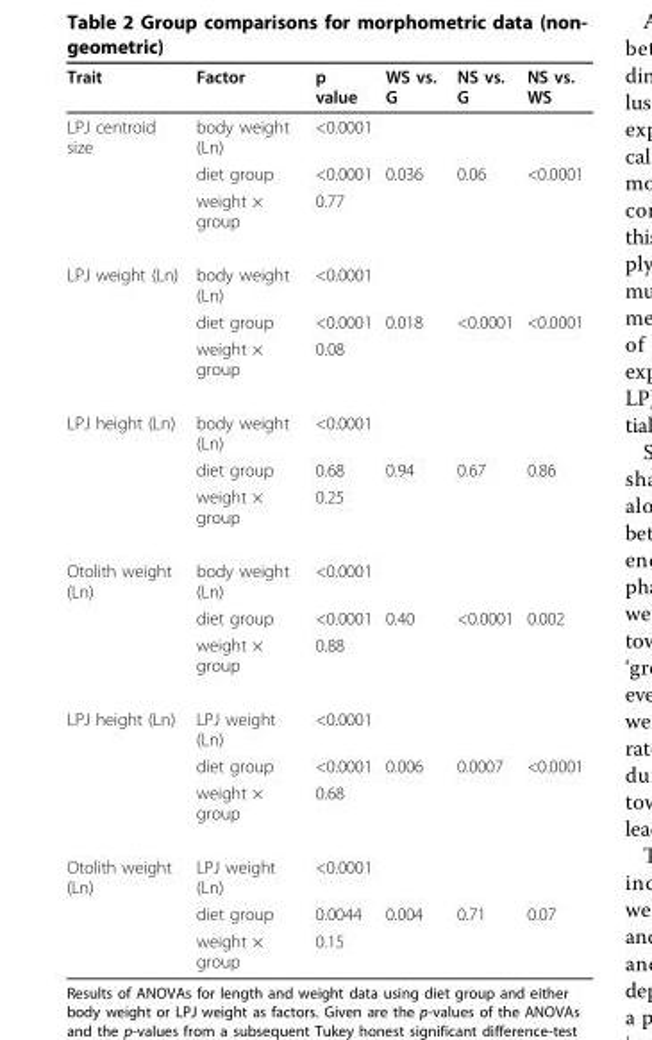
<table><thead><tr><td>Trait</td><td>Factor</td><td>p value</td><td>WS vs. G</td><td>NS vs. G</td><td>NS vs. WS</td></tr></thead><tbody><tr><td rowspan="3">LPJ centroid size</td><td>body weight (Ln)</td><td>&lt;0.0001</td><td></td><td></td><td></td></tr><tr><td>diet group</td><td>&lt;0.0001</td><td>0.036</td><td>0.06</td><td>&lt;0.0001</td></tr><tr><td>weight × group</td><td>0.77</td><td></td><td></td><td></td></tr><tr><td rowspan="3">LPJ weight (Ln)</td><td>body weight (Ln)</td><td>&lt;0.0001</td><td></td><td></td><td></td></tr><tr><td>diet group</td><td>&lt;0.0001</td><td>0.018</td><td>&lt;0.0001</td><td>&lt;0.0001</td></tr><tr><td>weight × group</td><td>0.08</td><td></td><td></td><td></td></tr><tr><td rowspan="3">LPJ height (Ln)</td><td>body weight (Ln)</td><td>&lt;0.0001</td><td></td><td></td><td></td></tr><tr><td>diet group</td><td>0.68</td><td>0.94</td><td>0.67</td><td>0.86</td></tr><tr><td>weight × group</td><td>0.25</td><td></td><td></td><td></td></tr><tr><td rowspan="3">Otolith weight (Ln)</td><td>body weight (Ln)</td><td>&lt;0.0001</td><td></td><td></td><td></td></tr><tr><td>diet group</td><td>&lt;0.0001</td><td>0.40</td><td>&lt;0.0001</td><td>0.002</td></tr><tr><td>weight × group</td><td>0.88</td><td></td><td></td><td></td></tr><tr><td rowspan="3">LPJ height (Ln)</td><td>LPJ weight (Ln)</td><td>&lt;0.0001</td><td></td><td></td><td></td></tr><tr><td>diet group</td><td>&lt;0.0001</td><td>0.006</td><td>0.0007</td><td>&lt;0.0001</td></tr><tr><td>weight × group</td><td>0.68</td><td></td><td></td><td></td></tr><tr><td rowspan="3">Otolith weight (Ln)</td><td>LPJ weight (Ln)</td><td>&lt;0.0001</td><td></td><td></td><td></td></tr><tr><td>diet group</td><td>0.0044</td><td>0.004</td><td>0.71</td><td>0.07</td></tr><tr><td>weight × group</td><td>0.15</td><td></td><td></td><td></td></tr></tbody></table>